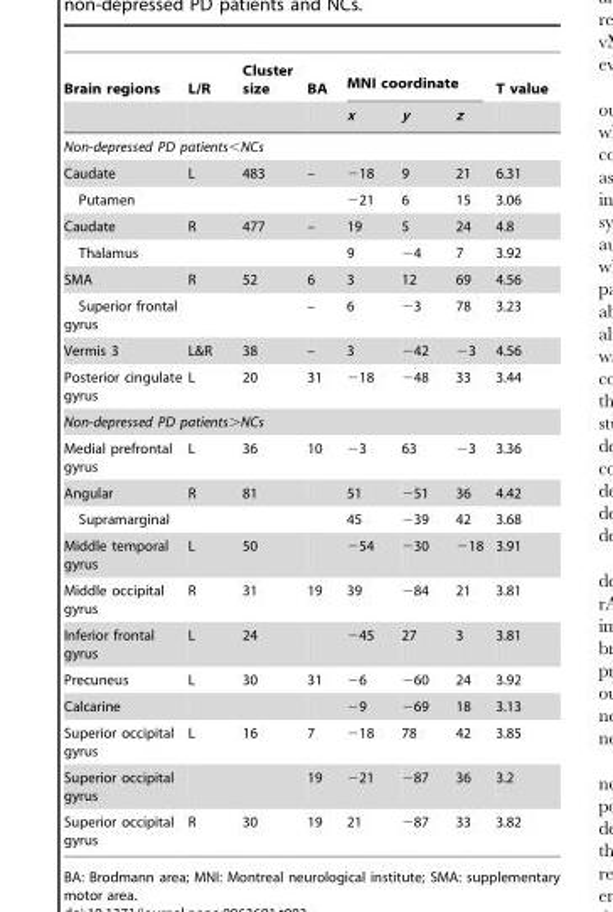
<table><thead><tr><td rowspan="2">Brain regions</td><td rowspan="2">L/R</td><td rowspan="2">Cluster size</td><td rowspan="2">BA</td><td colspan="3">MNI coordinate</td><td rowspan="2">T value</td></tr><tr><td>x</td><td>y</td><td>z</td></tr></thead><tbody><tr><td colspan="8">Non-depressed PD patients&lt;NCs</td></tr><tr><td>Caudate</td><td>L</td><td>483</td><td>–</td><td>−18</td><td>9</td><td>21</td><td>6.31</td></tr><tr><td>Putamen</td><td></td><td></td><td></td><td>−21</td><td>6</td><td>15</td><td>3.06</td></tr><tr><td>Caudate</td><td>R</td><td>477</td><td>–</td><td>19</td><td>5</td><td>24</td><td>4.8</td></tr><tr><td>Thalamus</td><td></td><td></td><td></td><td>9</td><td>−4</td><td>7</td><td>3.92</td></tr><tr><td>SMA</td><td>R</td><td>52</td><td>6</td><td>3</td><td>12</td><td>69</td><td>4.56</td></tr><tr><td>Superior frontal gyrus</td><td></td><td></td><td>–</td><td>6</td><td>−3</td><td>78</td><td>3.23</td></tr><tr><td>Vermis 3</td><td>L&amp;R</td><td>38</td><td>–</td><td>3</td><td>−42</td><td>−3</td><td>4.56</td></tr><tr><td>Posterior cingulate gyrus</td><td>L</td><td>20</td><td>31</td><td>−18</td><td>−48</td><td>33</td><td>3.44</td></tr><tr><td colspan="8">Non-depressed PD patients&gt;NCs</td></tr><tr><td>Medial prefrontal gyrus</td><td>L</td><td>36</td><td>10</td><td>−3</td><td>63</td><td>−3</td><td>3.36</td></tr><tr><td>Angular</td><td>R</td><td>81</td><td></td><td>51</td><td>−51</td><td>36</td><td>4.42</td></tr><tr><td>Supramarginal</td><td></td><td></td><td></td><td>45</td><td>−39</td><td>42</td><td>3.68</td></tr><tr><td>Middle temporal gyrus</td><td>L</td><td>50</td><td></td><td>−54</td><td>−30</td><td>−18</td><td>3.91</td></tr><tr><td>Middle occipital gyrus</td><td>R</td><td>31</td><td>19</td><td>39</td><td>−84</td><td>21</td><td>3.81</td></tr><tr><td>Inferior frontal gyrus</td><td>L</td><td>24</td><td></td><td>−45</td><td>27</td><td>3</td><td>3.81</td></tr><tr><td>Precuneus</td><td>L</td><td>30</td><td>31</td><td>−6</td><td>−60</td><td>24</td><td>3.92</td></tr><tr><td>Calcarine</td><td></td><td></td><td></td><td>−9</td><td>−69</td><td>18</td><td>3.13</td></tr><tr><td>Superior occipital gyrus</td><td>L</td><td>16</td><td>7</td><td>−18</td><td>78</td><td>42</td><td>3.85</td></tr><tr><td>Superior occipital gyrus</td><td></td><td></td><td>19</td><td>−21</td><td>−87</td><td>36</td><td>3.2</td></tr><tr><td>Superior occipital gyrus</td><td>R</td><td>30</td><td>19</td><td>21</td><td>−87</td><td>33</td><td>3.82</td></tr></tbody></table>